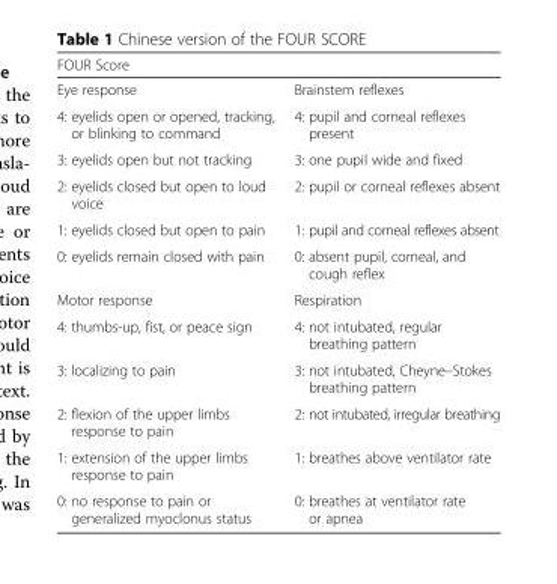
<table><thead><tr><td colspan="2">FOUR Score</td></tr><tr><td>Eye response</td><td>Brainstem reflexes</td></tr></thead><tbody><tr><td>4: eyelids open or opened, tracking, or blinking to command</td><td>4: pupil and corneal reflexes present</td></tr><tr><td>3: eyelids open but not tracking</td><td>3: one pupil wide and fixed</td></tr><tr><td>2: eyelids closed but open to loud voice</td><td>2: pupil or corneal reflexes absent</td></tr><tr><td>1: eyelids closed but open to pain</td><td>1: pupil and corneal reflexes absent</td></tr><tr><td>0: eyelids remain closed with pain</td><td>0: absent pupil, corneal, and cough reflex</td></tr><tr><td>Motor response</td><td>Respiration</td></tr><tr><td>4: thumbs-up, fist, or peace sign</td><td>4: not intubated, regular breathing pattern</td></tr><tr><td>3: localizing to pain</td><td>3: not intubated, Cheyne–Stokes breathing pattern</td></tr><tr><td>2: flexion of the upper limbs response to pain</td><td>2: not intubated, irregular breathing</td></tr><tr><td>1: extension of the upper limbs response to pain</td><td>1: breathes above ventilator rate</td></tr><tr><td>0: no response to pain or generalized myoclonus status</td><td>0: breathes at ventilator rate or apnea</td></tr></tbody></table>